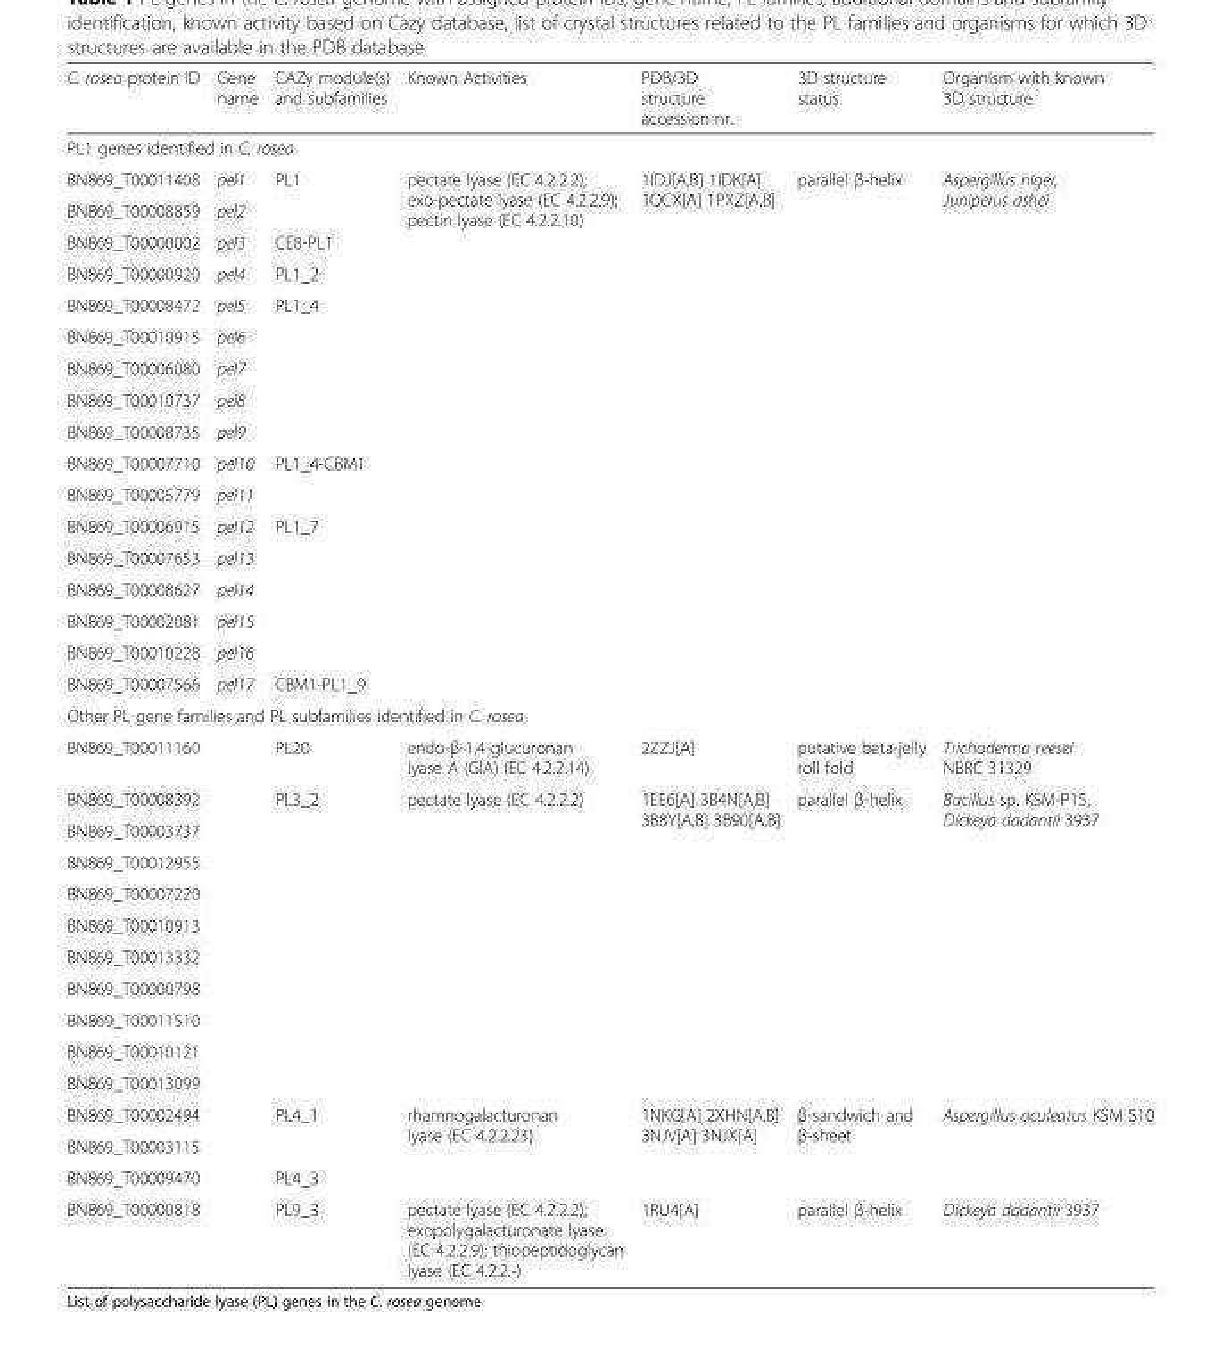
<table><thead><tr><td>C. rosea protein ID</td><td>Gene name</td><td>CAZy module(s) and subfamilies</td><td>Known Activities</td><td>PDB/3D structure accession nr.</td><td>3D structure status</td><td>Organism with known 3D structure</td></tr></thead><tbody><tr><td colspan="7">PL1 genes identified in C. rosea</td></tr><tr><td>BN869_T00011408</td><td>pel1</td><td rowspan="2">PL1</td><td rowspan="16">pectate lyase (EC 4.2.2.2); exo-pectate lyase (EC 4.2.2.9); pectin lyase (EC 4.2.2.10)</td><td rowspan="16">1IDJ[A,B] 1IDK[A] 1QCX[A] 1PXZ[A,B]</td><td rowspan="16">parallel β-helix</td><td rowspan="16">Aspergillus niger, Juniperus ashei</td></tr><tr><td>BN869_T00008859</td><td>pel2</td></tr><tr><td>BN869_T00000002</td><td>pel3</td><td>CE8-PL1</td></tr><tr><td>BN869_T00000920</td><td>pel4</td><td>PL1_2</td></tr><tr><td>BN869_T00008472</td><td>pel5</td><td rowspan="5">PL1_4</td></tr><tr><td>BN869_T00010915</td><td>pel6</td></tr><tr><td>BN869_T00006080</td><td>pel7</td></tr><tr><td>BN869_T00010737</td><td>pel8</td></tr><tr><td>BN869_T00008735</td><td>pel9</td></tr><tr><td>BN869_T00007710</td><td>pel10</td><td rowspan="2">PL1_4-CBM1</td></tr><tr><td>BN869_T00005779</td><td>pel11</td></tr><tr><td>BN869_T00006915</td><td>pel12</td><td rowspan="5">PL1_7</td></tr><tr><td>BN869_T00007653</td><td>pel13</td></tr><tr><td>BN869_T00008627</td><td>pel14</td></tr><tr><td>BN869_T00002081</td><td>pel15</td></tr><tr><td>BN869_T00010228</td><td>pel16</td></tr><tr><td>BN869_T00007566</td><td>pel17</td><td>CBM1-PL1_9</td><td></td><td></td><td></td><td></td></tr><tr><td colspan="7">Other PL gene families and PL subfamilies identified in C. rosea</td></tr><tr><td>BN869_T00011160</td><td></td><td>PL20</td><td>endo-β-1,4-glucuronan lyase A (GlA) (EC 4.2.2.14)</td><td>2ZZJ[A]</td><td>putative beta-jelly roll fold</td><td>Trichoderma reesei NBRC 31329</td></tr><tr><td colspan="2">BN869_T00008392</td><td rowspan="10">PL3_2</td><td rowspan="10">pectate lyase (EC 4.2.2.2)</td><td rowspan="10">1EE6[A] 3B4N[A,B] 3B8Y[A,B] 3B90[A,B]</td><td rowspan="10">parallel β-helix</td><td rowspan="10">Bacillus sp. KSM-P15, Dickeya dadantii 3937</td></tr><tr><td colspan="2">BN869_T00003737</td></tr><tr><td colspan="2">BN869_T00012955</td></tr><tr><td colspan="2">BN869_T00007220</td></tr><tr><td colspan="2">BN869_T00010913</td></tr><tr><td colspan="2">BN869_T00013332</td></tr><tr><td colspan="2">BN869_T00000798</td></tr><tr><td colspan="2">BN869_T00011510</td></tr><tr><td colspan="2">BN869_T00010121</td></tr><tr><td colspan="2">BN869_T00013099</td></tr><tr><td colspan="2">BN869_T00002494</td><td rowspan="2">PL4_1</td><td rowspan="3">rhamnogalacturonan lyase (EC 4.2.2.23)</td><td rowspan="3">1NKG[A] 2XHN[A,B] 3NJV[A] 3NJX[A]</td><td rowspan="3">β-sandwich and β-sheet</td><td rowspan="3">Aspergillus aculeatus KSM 510</td></tr><tr><td colspan="2">BN869_T00003115</td></tr><tr><td>BN869_T00009470</td><td></td><td>PL4_3</td></tr><tr><td>BN869_T00000818</td><td></td><td>PL9_3</td><td>pectate lyase (EC 4.2.2.2); exopolygalacturonate lyase (EC 4.2.2.9); thiopeptidoglycan lyase (EC 4.2.2.-)</td><td>1RU4[A]</td><td>parallel β-helix</td><td>Dickeya dadantii 3937</td></tr></tbody></table>